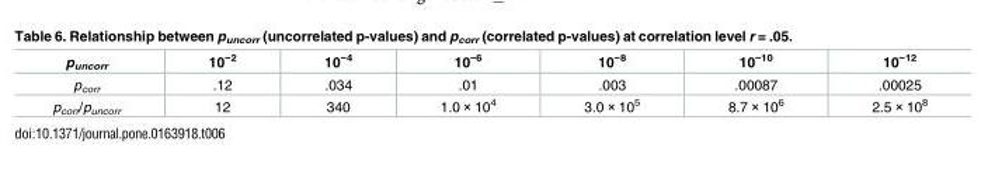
<table><thead><tr><td>p<sub>uncorr</sub></td><td>10<sup>−2</sup></td><td>10<sup>−4</sup></td><td>10<sup>−6</sup></td><td>10<sup>−8</sup></td><td>10<sup>−10</sup></td><td>10<sup>−12</sup></td></tr></thead><tbody><tr><td>p<sub>corr</sub></td><td>.12</td><td>.034</td><td>.01</td><td>.003</td><td>.00087</td><td>.00025</td></tr><tr><td>p<sub>corr</sub>/p<sub>uncorr</sub></td><td>12</td><td>340</td><td>1.0 × 10<sup>4</sup></td><td>3.0 × 10<sup>5</sup></td><td>8.7 × 10<sup>6</sup></td><td>2.5 × 10<sup>8</sup></td></tr></tbody></table>